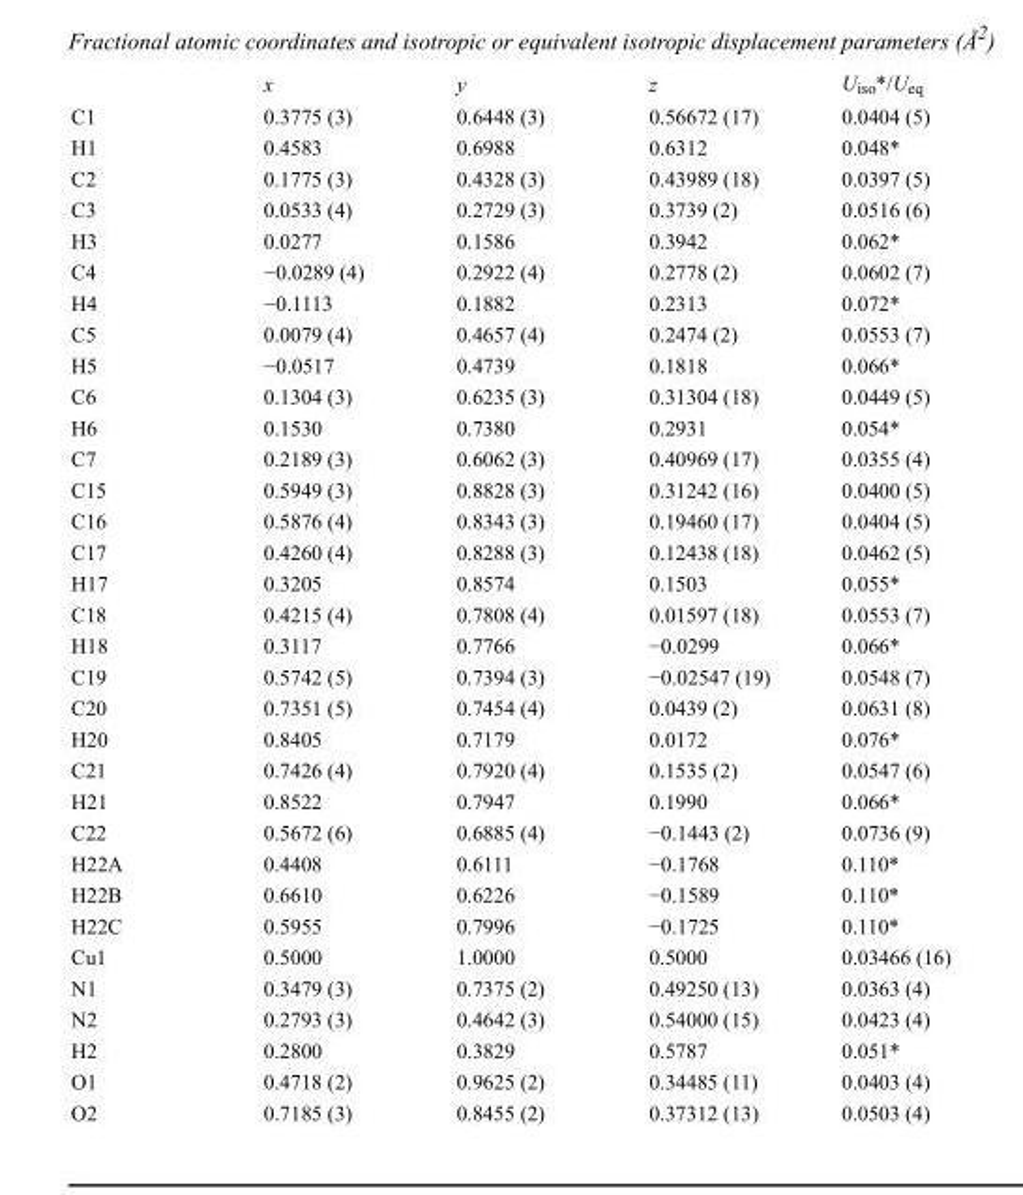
<table><thead><tr><td></td><td>x</td><td>y</td><td>z</td><td>U<sub>iso</sub>*/U<sub>eq</sub></td></tr></thead><tbody><tr><td>C1</td><td>0.3775 (3)</td><td>0.6448 (3)</td><td>0.56672 (17)</td><td>0.0404 (5)</td></tr><tr><td>H1</td><td>0.4583</td><td>0.6988</td><td>0.6312</td><td>0.048*</td></tr><tr><td>C2</td><td>0.1775 (3)</td><td>0.4328 (3)</td><td>0.43989 (18)</td><td>0.0397 (5)</td></tr><tr><td>C3</td><td>0.0533 (4)</td><td>0.2729 (3)</td><td>0.3739 (2)</td><td>0.0516 (6)</td></tr><tr><td>H3</td><td>0.0277</td><td>0.1586</td><td>0.3942</td><td>0.062*</td></tr><tr><td>C4</td><td>−0.0289 (4)</td><td>0.2922 (4)</td><td>0.2778 (2)</td><td>0.0602 (7)</td></tr><tr><td>H4</td><td>−0.1113</td><td>0.1882</td><td>0.2313</td><td>0.072*</td></tr><tr><td>C5</td><td>0.0079 (4)</td><td>0.4657 (4)</td><td>0.2474 (2)</td><td>0.0553 (7)</td></tr><tr><td>H5</td><td>−0.0517</td><td>0.4739</td><td>0.1818</td><td>0.066*</td></tr><tr><td>C6</td><td>0.1304 (3)</td><td>0.6235 (3)</td><td>0.31304 (18)</td><td>0.0449 (5)</td></tr><tr><td>H6</td><td>0.1530</td><td>0.7380</td><td>0.2931</td><td>0.054*</td></tr><tr><td>C7</td><td>0.2189 (3)</td><td>0.6062 (3)</td><td>0.40969 (17)</td><td>0.0355 (4)</td></tr><tr><td>C15</td><td>0.5949 (3)</td><td>0.8828 (3)</td><td>0.31242 (16)</td><td>0.0400 (5)</td></tr><tr><td>C16</td><td>0.5876 (4)</td><td>0.8343 (3)</td><td>0.19460 (17)</td><td>0.0404 (5)</td></tr><tr><td>C17</td><td>0.4260 (4)</td><td>0.8288 (3)</td><td>0.12438 (18)</td><td>0.0462 (5)</td></tr><tr><td>H17</td><td>0.3205</td><td>0.8574</td><td>0.1503</td><td>0.055*</td></tr><tr><td>C18</td><td>0.4215 (4)</td><td>0.7808 (4)</td><td>0.01597 (18)</td><td>0.0553 (7)</td></tr><tr><td>H18</td><td>0.3117</td><td>0.7766</td><td>−0.0299</td><td>0.066*</td></tr><tr><td>C19</td><td>0.5742 (5)</td><td>0.7394 (3)</td><td>−0.02547 (19)</td><td>0.0548 (7)</td></tr><tr><td>C20</td><td>0.7351 (5)</td><td>0.7454 (4)</td><td>0.0439 (2)</td><td>0.0631 (8)</td></tr><tr><td>H20</td><td>0.8405</td><td>0.7179</td><td>0.0172</td><td>0.076*</td></tr><tr><td>C21</td><td>0.7426 (4)</td><td>0.7920 (4)</td><td>0.1535 (2)</td><td>0.0547 (6)</td></tr><tr><td>H21</td><td>0.8522</td><td>0.7947</td><td>0.1990</td><td>0.066*</td></tr><tr><td>C22</td><td>0.5672 (6)</td><td>0.6885 (4)</td><td>−0.1443 (2)</td><td>0.0736 (9)</td></tr><tr><td>H22A</td><td>0.4408</td><td>0.6111</td><td>−0.1768</td><td>0.110*</td></tr><tr><td>H22B</td><td>0.6610</td><td>0.6226</td><td>−0.1589</td><td>0.110*</td></tr><tr><td>H22C</td><td>0.5955</td><td>0.7996</td><td>−0.1725</td><td>0.110*</td></tr><tr><td>Cu1</td><td>0.5000</td><td>1.0000</td><td>0.5000</td><td>0.03466 (16)</td></tr><tr><td>N1</td><td>0.3479 (3)</td><td>0.7375 (2)</td><td>0.49250 (13)</td><td>0.0363 (4)</td></tr><tr><td>N2</td><td>0.2793 (3)</td><td>0.4642 (3)</td><td>0.54000 (15)</td><td>0.0423 (4)</td></tr><tr><td>H2</td><td>0.2800</td><td>0.3829</td><td>0.5787</td><td>0.051*</td></tr><tr><td>O1</td><td>0.4718 (2)</td><td>0.9625 (2)</td><td>0.34485 (11)</td><td>0.0403 (4)</td></tr><tr><td>O2</td><td>0.7185 (3)</td><td>0.8455 (2)</td><td>0.37312 (13)</td><td>0.0503 (4)</td></tr></tbody></table>